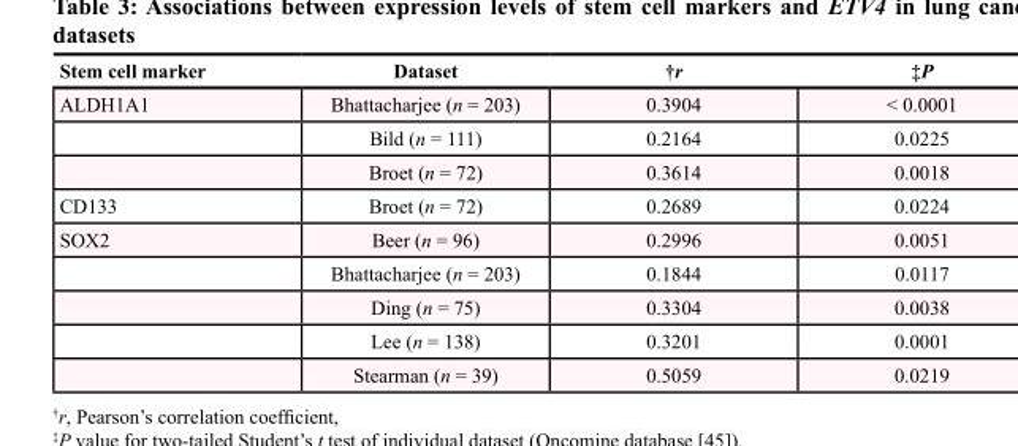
<table><thead><tr><td>Stem cell marker</td><td>Dataset</td><td>†r</td><td>‡P</td></tr></thead><tbody><tr><td rowspan="3">ALDH1A1</td><td>Bhattacharjee (n = 203)</td><td>0.3904</td><td>&lt; 0.0001</td></tr><tr><td>Bild (n = 111)</td><td>0.2164</td><td>0.0225</td></tr><tr><td>Broet (n = 72)</td><td>0.3614</td><td>0.0018</td></tr><tr><td>CD133</td><td>Broet (n = 72)</td><td>0.2689</td><td>0.0224</td></tr><tr><td rowspan="5">SOX2</td><td>Beer (n = 96)</td><td>0.2996</td><td>0.0051</td></tr><tr><td>Bhattacharjee (n = 203)</td><td>0.1844</td><td>0.0117</td></tr><tr><td>Ding (n = 75)</td><td>0.3304</td><td>0.0038</td></tr><tr><td>Lee (n = 138)</td><td>0.3201</td><td>0.0001</td></tr><tr><td>Stearman (n = 39)</td><td>0.5059</td><td>0.0219</td></tr></tbody></table>